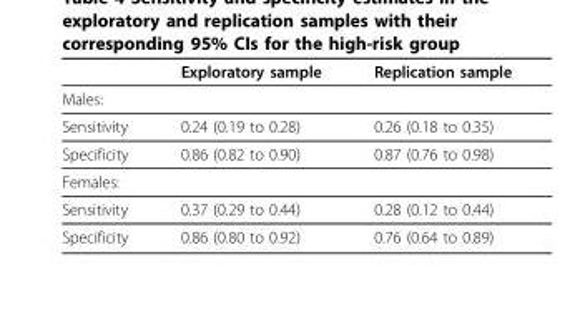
<table><thead><tr><td></td><td>Exploratory sample</td><td>Replication sample</td></tr></thead><tbody><tr><td colspan="3">Males:</td></tr><tr><td>Sensitivity</td><td>0.24 (0.19 to 0.28)</td><td>0.26 (0.18 to 0.35)</td></tr><tr><td>Specificity</td><td>0.86 (0.82 to 0.90)</td><td>0.87 (0.76 to 0.98)</td></tr><tr><td colspan="3">Females:</td></tr><tr><td>Sensitivity</td><td>0.37 (0.29 to 0.44)</td><td>0.28 (0.12 to 0.44)</td></tr><tr><td>Specificity</td><td>0.86 (0.80 to 0.92)</td><td>0.76 (0.64 to 0.89)</td></tr></tbody></table>